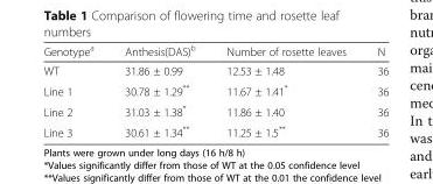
<table><thead><tr><td>Genotype<sup>a</sup></td><td>Anthesis(DAS)<sup>b</sup></td><td>Number of rosette leaves</td><td>N</td></tr></thead><tbody><tr><td>WT</td><td>31.86 ± 0.99</td><td>12.53 ± 1.48</td><td>36</td></tr><tr><td>Line 1</td><td>30.78 ± 1.29**</td><td>11.67 ± 1.41*</td><td>36</td></tr><tr><td>Line 2</td><td>31.03 ± 1.38*</td><td>11.86 ± 1.40</td><td>36</td></tr><tr><td>Line 3</td><td>30.61 ± 1.34**</td><td>11.25 ± 1.5**</td><td>36</td></tr></tbody></table>